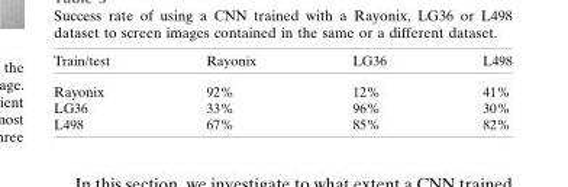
<table><thead><tr><td>Train/test</td><td>Rayonix</td><td>LG36</td><td>L498</td></tr></thead><tbody><tr><td>Rayonix</td><td>92%</td><td>12%</td><td>41%</td></tr><tr><td>LG36</td><td>33%</td><td>96%</td><td>30%</td></tr><tr><td>L498</td><td>67%</td><td>85%</td><td>82%</td></tr></tbody></table>